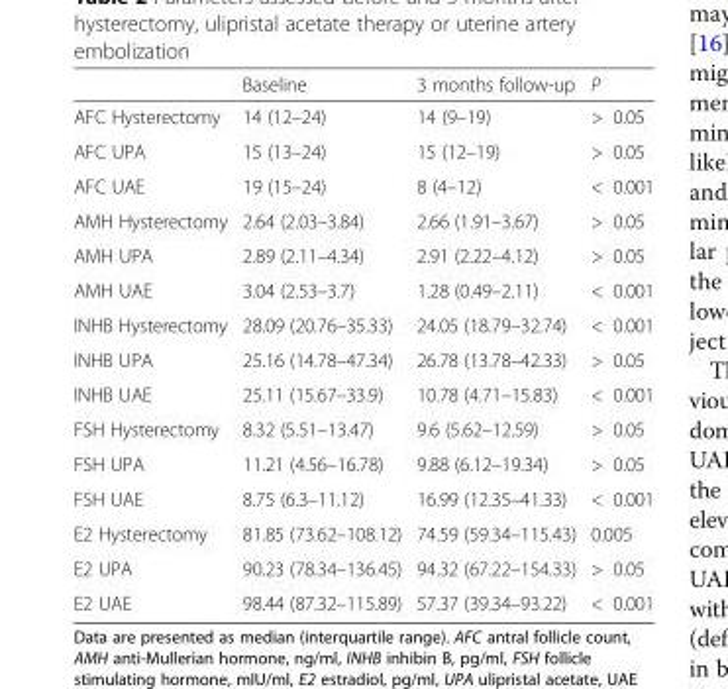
<table><thead><tr><td></td><td>Baseline</td><td>3 months follow-up</td><td>P</td></tr></thead><tbody><tr><td>AFC Hysterectomy</td><td>14 (12–24)</td><td>14 (9–19)</td><td>&gt; 0.05</td></tr><tr><td>AFC UPA</td><td>15 (13–24)</td><td>15 (12–19)</td><td>&gt; 0.05</td></tr><tr><td>AFC UAE</td><td>19 (15–24)</td><td>8 (4–12)</td><td>&lt; 0.001</td></tr><tr><td>AMH Hysterectomy</td><td>2.64 (2.03–3.84)</td><td>2.66 (1.91–3.67)</td><td>&gt; 0.05</td></tr><tr><td>AMH UPA</td><td>2.89 (2.11–4.34)</td><td>2.91 (2.22–4.12)</td><td>&gt; 0.05</td></tr><tr><td>AMH UAE</td><td>3.04 (2.53–3.7)</td><td>1.28 (0.49–2.11)</td><td>&lt; 0.001</td></tr><tr><td>INHB Hysterectomy</td><td>28.09 (20.76–35.33)</td><td>24.05 (18.79–32.74)</td><td>&lt; 0.001</td></tr><tr><td>INHB UPA</td><td>25.16 (14.78–47.34)</td><td>26.78 (13.78–42.33)</td><td>&gt; 0.05</td></tr><tr><td>INHB UAE</td><td>25.11 (15.67–33.9)</td><td>10.78 (4.71–15.83)</td><td>&lt; 0.001</td></tr><tr><td>FSH Hysterectomy</td><td>8.32 (5.51–13.47)</td><td>9.6 (5.62–12.59)</td><td>&gt; 0.05</td></tr><tr><td>FSH UPA</td><td>11.21 (4.56–16.78)</td><td>9.88 (6.12–19.34)</td><td>&gt; 0.05</td></tr><tr><td>FSH UAE</td><td>8.75 (6.3–11.12)</td><td>16.99 (12.35–41.33)</td><td>&lt; 0.001</td></tr><tr><td>E2 Hysterectomy</td><td>81.85 (73.62–108.12)</td><td>74.59 (59.34–115.43)</td><td>0.005</td></tr><tr><td>E2 UPA</td><td>90.23 (78.34–136.45)</td><td>94.32 (67.22–154.33)</td><td>&gt; 0.05</td></tr><tr><td>E2 UAE</td><td>98.44 (87.32–115.89)</td><td>57.37 (39.34–93.22)</td><td>&lt; 0.001</td></tr></tbody></table>